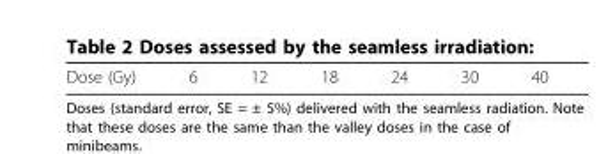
<table><tbody><tr><td>Dose (Gy)</td><td>6</td><td>12</td><td>18</td><td>24</td><td>30</td><td>40</td></tr></tbody></table>